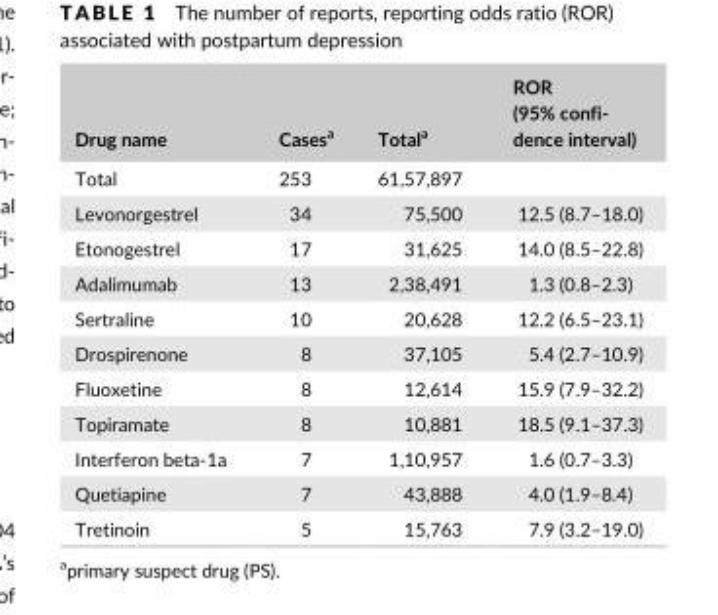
<table><thead><tr><td>Drug name</td><td>Cases<sup>a</sup></td><td>Total<sup>a</sup></td><td>ROR (95% confi- dence interval)</td></tr></thead><tbody><tr><td>Total</td><td>253</td><td>61,57,897</td><td></td></tr><tr><td>Levonorgestrel</td><td>34</td><td>75,500</td><td>12.5 (8.7–18.0)</td></tr><tr><td>Etonogestrel</td><td>17</td><td>31,625</td><td>14.0 (8.5–22.8)</td></tr><tr><td>Adalimumab</td><td>13</td><td>2,38,491</td><td>1.3 (0.8–2.3)</td></tr><tr><td>Sertraline</td><td>10</td><td>20,628</td><td>12.2 (6.5–23.1)</td></tr><tr><td>Drospirenone</td><td>8</td><td>37,105</td><td>5.4 (2.7–10.9)</td></tr><tr><td>Fluoxetine</td><td>8</td><td>12,614</td><td>15.9 (7.9–32.2)</td></tr><tr><td>Topiramate</td><td>8</td><td>10,881</td><td>18.5 (9.1–37.3)</td></tr><tr><td>Interferon beta- 1a</td><td>7</td><td>1,10,957</td><td>1.6 (0.7–3.3)</td></tr><tr><td>Quetiapine</td><td>7</td><td>43,888</td><td>4.0 (1.9–8.4)</td></tr><tr><td>Tretinoin</td><td>5</td><td>15,763</td><td>7.9 (3.2–19.0)</td></tr></tbody></table>